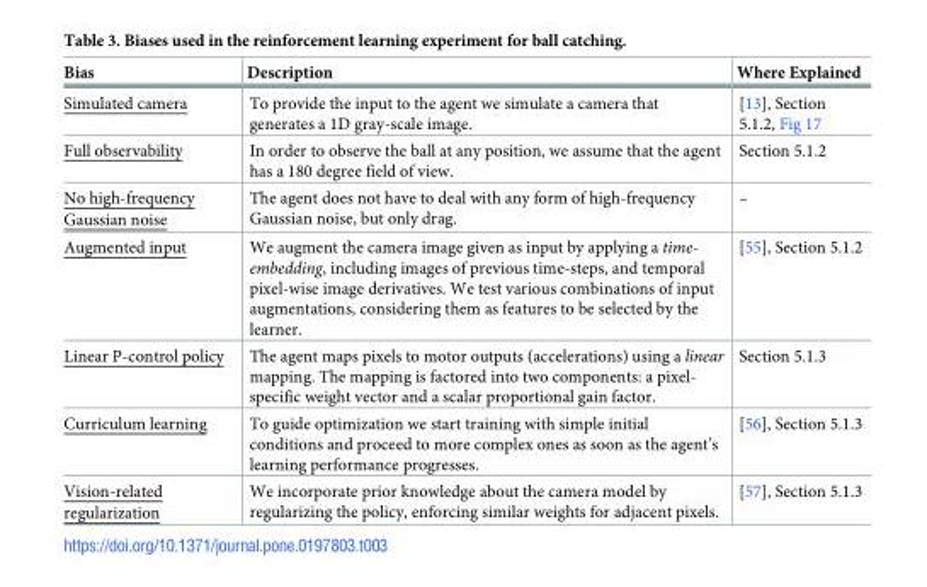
<table><thead><tr><td>Bias</td><td>Description</td><td>Where Explained</td></tr></thead><tbody><tr><td>Simulated camera</td><td>To provide the input to the agent we simulate a camera that generates a 1D gray-scale image.</td><td>[13], Section 5.1.2, Fig 17</td></tr><tr><td>Full observability</td><td>In order to observe the ball at any position, we assume that the agent has a 180 degree field of view.</td><td>Section 5.1.2</td></tr><tr><td>No high-frequency Gaussian noise</td><td>The agent does not have to deal with any form of high-frequency Gaussian noise, but only drag.</td><td>–</td></tr><tr><td>Augmented input</td><td>We augment the camera image given as input by applying a time- embedding, including images of previous time-steps, and temporal pixel-wise image derivatives. We test various combinations of input augmentations, considering them as features to be selected by the learner.</td><td>[55], Section 5.1.2</td></tr><tr><td>Linear P-control policy</td><td>The agent maps pixels to motor outputs (accelerations) using a linear mapping. The mapping is factored into two components: a pixel- specific weight vector and a scalar proportional gain factor.</td><td>Section 5.1.3</td></tr><tr><td>Curriculum learning</td><td>To guide optimization we start training with simple initial conditions and proceed to more complex ones as soon as the agent’s learning performance progresses.</td><td>[56], Section 5.1.3</td></tr><tr><td>Vision-related regularization</td><td>We incorporate prior knowledge about the camera model by regularizing the policy, enforcing similar weights for adjacent pixels.</td><td>[57], Section 5.1.3</td></tr></tbody></table>